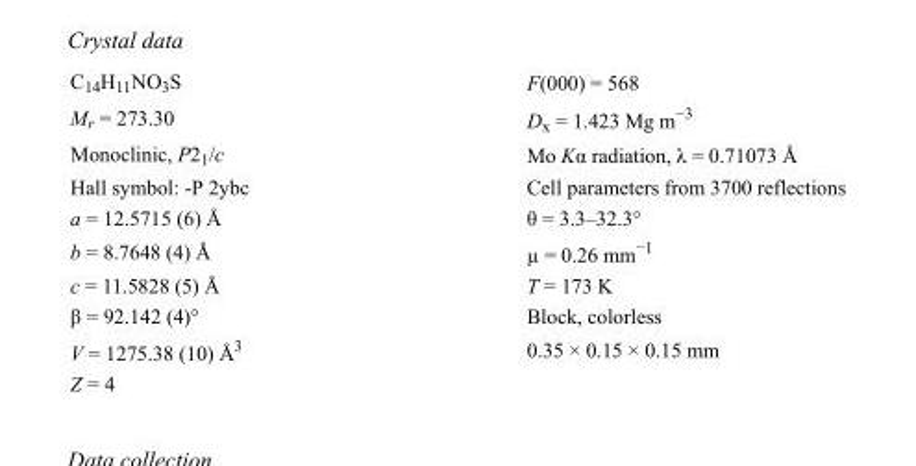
<table><tbody><tr><td>C<sub>14</sub>H<sub>11</sub>NO<sub>3</sub>S</td><td>F(000) = 568</td></tr><tr><td>M<sub>r</sub> = 273.30</td><td>D<sub>x</sub> = 1.423 Mg m<sup>−3</sup></td></tr><tr><td>Monoclinic, P2<sub>1</sub>/c</td><td>Mo Kα radiation, λ = 0.71073 Å</td></tr><tr><td>Hall symbol: -P 2ybc</td><td>Cell parameters from 3700 reflections</td></tr><tr><td>a = 12.5715 (6) Å</td><td>θ = 3.3–32.3°</td></tr><tr><td>b = 8.7648 (4) Å</td><td>µ = 0.26 mm<sup>−1</sup></td></tr><tr><td>c = 11.5828 (5) Å</td><td>T = 173 K</td></tr><tr><td>β = 92.142 (4)°</td><td>Block, colorless</td></tr><tr><td>V = 1275.38 (10) Å<sup>3</sup></td><td>0.35 × 0.15 × 0.15 mm</td></tr><tr><td>Z = 4</td><td></td></tr></tbody></table>